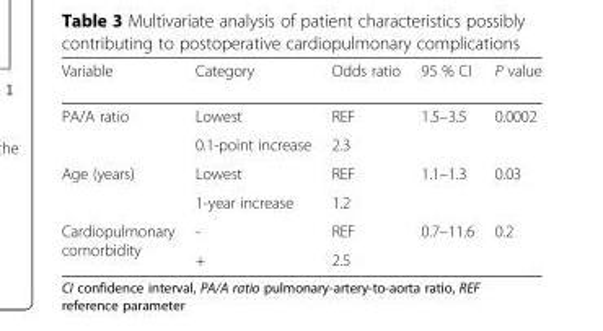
<table><thead><tr><td>Variable</td><td>Category</td><td>Odds ratio</td><td>95 % CI</td><td>P value</td></tr></thead><tbody><tr><td rowspan="2">PA/A ratio</td><td>Lowest</td><td>REF</td><td rowspan="2">1.5–3.5</td><td rowspan="2">0.0002</td></tr><tr><td>0.1-point increase</td><td>2.3</td></tr><tr><td rowspan="2">Age (years)</td><td>Lowest</td><td>REF</td><td rowspan="2">1.1–1.3</td><td rowspan="2">0.03</td></tr><tr><td>1-year increase</td><td>1.2</td></tr><tr><td rowspan="2">Cardiopulmonary comorbidity</td><td>-</td><td>REF</td><td rowspan="2">0.7–11.6</td><td rowspan="2">0.2</td></tr><tr><td>+</td><td>2.5</td></tr></tbody></table>